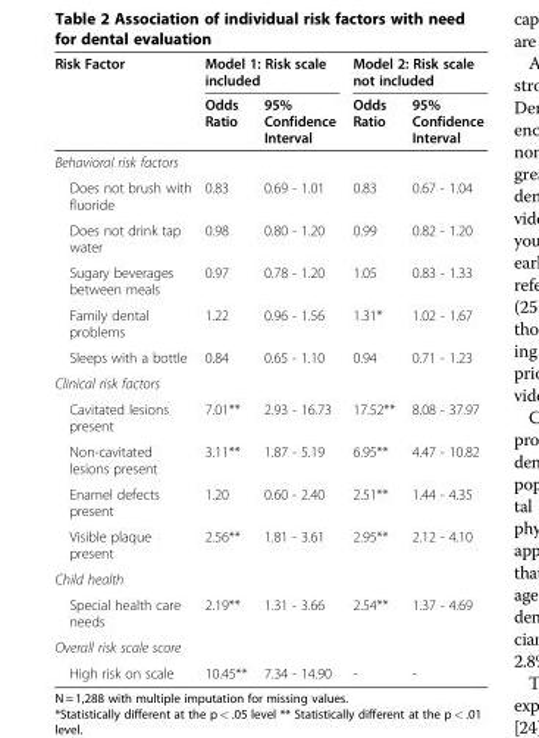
<table><thead><tr><td rowspan="2">Risk Factor</td><td colspan="2">Model 1: Risk scale included</td><td colspan="2">Model 2: Risk scale not included</td></tr><tr><td>Odds Ratio</td><td>95% Confidence Interval</td><td>Odds Ratio</td><td>95% Confidence Interval</td></tr></thead><tbody><tr><td colspan="5">Behavioral risk factors</td></tr><tr><td>Does not brush with fluoride</td><td>0.83</td><td>0.69 - 1.01</td><td>0.83</td><td>0.67 - 1.04</td></tr><tr><td>Does not drink tap water</td><td>0.98</td><td>0.80 - 1.20</td><td>0.99</td><td>0.82 - 1.20</td></tr><tr><td>Sugary beverages between meals</td><td>0.97</td><td>0.78 - 1.20</td><td>1.05</td><td>0.83 - 1.33</td></tr><tr><td>Family dental problems</td><td>1.22</td><td>0.96 - 1.56</td><td>1.31*</td><td>1.02 - 1.67</td></tr><tr><td>Sleeps with a bottle</td><td>0.84</td><td>0.65 - 1.10</td><td>0.94</td><td>0.71 - 1.23</td></tr><tr><td colspan="5">Clinical risk factors</td></tr><tr><td>Cavitated lesions present</td><td>7.01**</td><td>2.93 - 16.73</td><td>17.52**</td><td>8.08 - 37.97</td></tr><tr><td>Non-cavitated lesions present</td><td>3.11**</td><td>1.87 - 5.19</td><td>6.95**</td><td>4.47 - 10.82</td></tr><tr><td>Enamel defects present</td><td>1.20</td><td>0.60 - 2.40</td><td>2.51**</td><td>1.44 - 4.35</td></tr><tr><td>Visible plaque present</td><td>2.56**</td><td>1.81 - 3.61</td><td>2.95**</td><td>2.12 - 4.10</td></tr><tr><td colspan="5">Child health</td></tr><tr><td>Special health care needs</td><td>2.19**</td><td>1.31 - 3.66</td><td>2.54**</td><td>1.37 - 4.69</td></tr><tr><td colspan="5">Overall risk scale score</td></tr><tr><td>High risk on scale</td><td>10.45**</td><td>7.34 - 14.90</td><td>-</td><td>-</td></tr></tbody></table>